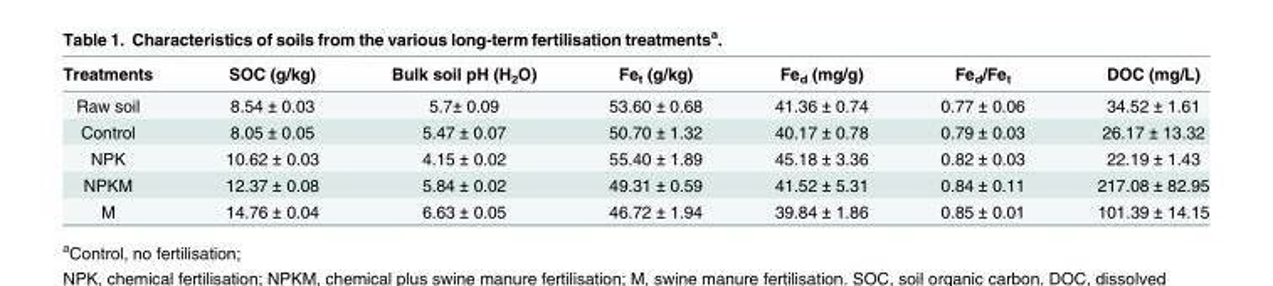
<table><thead><tr><td>Treatments</td><td>SOC (g/kg)</td><td>Bulk soil pH (H<sub>2</sub>O)</td><td>Fe<sub>t</sub> (g/kg)</td><td>Fe<sub>d</sub> (mg/g)</td><td>Fe<sub>d</sub>/Fe<sub>t</sub></td><td>DOC (mg/L)</td></tr></thead><tbody><tr><td>Raw soil</td><td>8.54 ± 0.03</td><td>5.7± 0.09</td><td>53.60 ± 0.68</td><td>41.36 ± 0.74</td><td>0.77 ± 0.06</td><td>34.52 ± 1.61</td></tr><tr><td>Control</td><td>8.05 ± 0.05</td><td>5.47 ± 0.07</td><td>50.70 ± 1.32</td><td>40.17 ± 0.78</td><td>0.79 ± 0.03</td><td>26.17 ± 13.32</td></tr><tr><td>NPK</td><td>10.62 ± 0.03</td><td>4.15 ± 0.02</td><td>55.40 ± 1.89</td><td>45.18 ± 3.36</td><td>0.82 ± 0.03</td><td>22.19 ± 1.43</td></tr><tr><td>NPKM</td><td>12.37 ± 0.08</td><td>5.84 ± 0.02</td><td>49.31 ± 0.59</td><td>41.52 ± 5.31</td><td>0.84 ± 0.11</td><td>217.08 ± 82.95</td></tr><tr><td>M</td><td>14.76 ± 0.04</td><td>6.63 ± 0.05</td><td>46.72 ± 1.94</td><td>39.84 ± 1.86</td><td>0.85 ± 0.01</td><td>101.39 ± 14.15</td></tr></tbody></table>